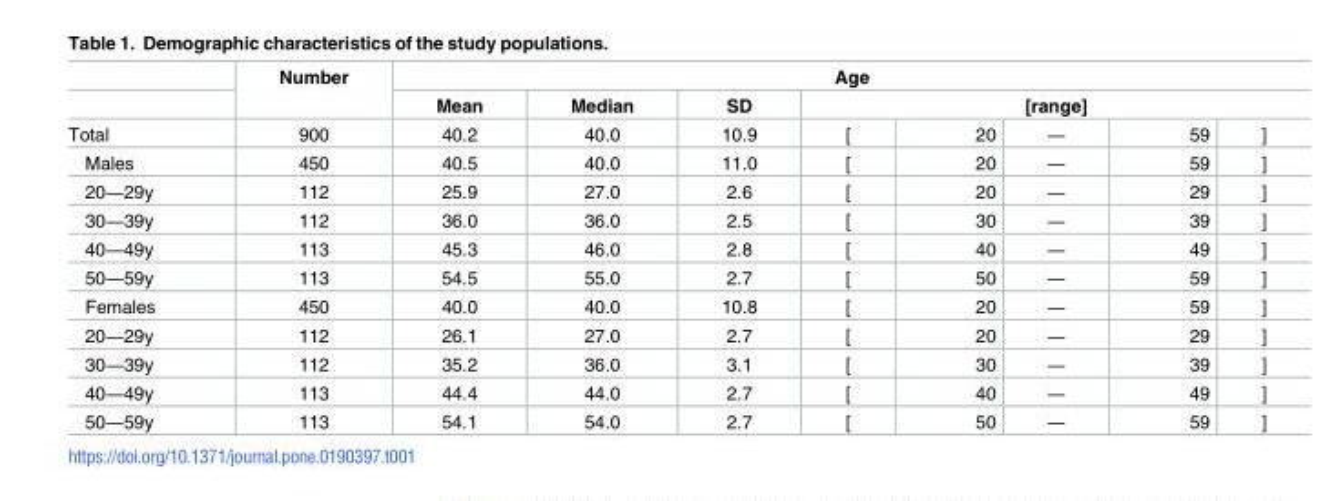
<table><thead><tr><td rowspan="3">Total</td><td rowspan="3">Number 900</td><td colspan="8">Age</td></tr><tr><td rowspan="2">Mean 40.2</td><td rowspan="2">Median 40.0</td><td rowspan="2">SD 10.9</td><td colspan="5">[range]</td></tr><tr><td>[</td><td>20</td><td>―</td><td>59</td><td>]</td></tr></thead><tbody><tr><td>Males</td><td>450</td><td>40.5</td><td>40.0</td><td>11.0</td><td>[</td><td>20</td><td>―</td><td>59</td><td>]</td></tr><tr><td>20―29y</td><td>112</td><td>25.9</td><td>27.0</td><td>2.6</td><td>[</td><td>20</td><td>―</td><td>29</td><td>]</td></tr><tr><td>30―39y</td><td>112</td><td>36.0</td><td>36.0</td><td>2.5</td><td>[</td><td>30</td><td>―</td><td>39</td><td>]</td></tr><tr><td>40―49y</td><td>113</td><td>45.3</td><td>46.0</td><td>2.8</td><td>[</td><td>40</td><td>―</td><td>49</td><td>]</td></tr><tr><td>50―59y</td><td>113</td><td>54.5</td><td>55.0</td><td>2.7</td><td>[</td><td>50</td><td>―</td><td>59</td><td>]</td></tr><tr><td>Females</td><td>450</td><td>40.0</td><td>40.0</td><td>10.8</td><td>[</td><td>20</td><td>―</td><td>59</td><td>]</td></tr><tr><td>20―29y</td><td>112</td><td>26.1</td><td>27.0</td><td>2.7</td><td>[</td><td>20</td><td>―</td><td>29</td><td>]</td></tr><tr><td>30―39y</td><td>112</td><td>35.2</td><td>36.0</td><td>3.1</td><td>[</td><td>30</td><td>―</td><td>39</td><td>]</td></tr><tr><td>40―49y</td><td>113</td><td>44.4</td><td>44.0</td><td>2.7</td><td>[</td><td>40</td><td>―</td><td>49</td><td>]</td></tr><tr><td>50―59y</td><td>113</td><td>54.1</td><td>54.0</td><td>2.7</td><td>[</td><td>50</td><td>―</td><td>59</td><td>]</td></tr></tbody></table>